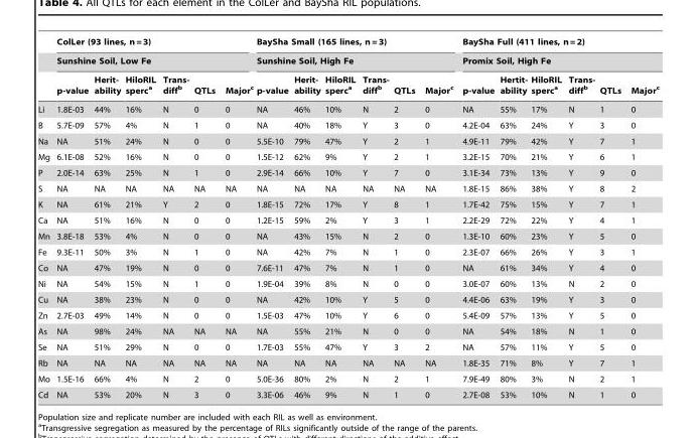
<table><thead><tr><td rowspan="3"></td><td rowspan="2" colspan="6">ColLer (93 lines, n = 3) Sunshine Soil, Low Fe</td><td rowspan="2" colspan="6">BaySha Small (165 lines, n = 3) Sunshine Soil, High Fe</td><td rowspan="2" colspan="6">BaySha Full (411 lines, n = 2) Promix Soil, High Fe</td></tr><tr></tr><tr><td>p-value</td><td>Herit- ability</td><td>HiloRIL sperc<sup>a</sup></td><td>Trans- diff<sup>b</sup></td><td>QTLs</td><td>Major<sup>c</sup></td><td>p-value</td><td>Herit- ability</td><td>HiloRIL sperc<sup>a</sup></td><td>Trans- diff<sup>b</sup></td><td>QTLs</td><td>Major<sup>c</sup></td><td>p-value</td><td>Hertit- ability</td><td>HiloRIL sperc<sup>a</sup></td><td>Trans- diff<sup>b</sup></td><td>QTLs</td><td>Major<sup>c</sup></td></tr></thead><tbody><tr><td>Li</td><td>1.8E-03</td><td>44%</td><td>16%</td><td>N</td><td>0</td><td>0</td><td>NA</td><td>46%</td><td>10%</td><td>N</td><td>2</td><td>0</td><td>NA</td><td>55%</td><td>17%</td><td>N</td><td>1</td><td>0</td></tr><tr><td>B</td><td>5.7E-09</td><td>57%</td><td>4%</td><td>N</td><td>1</td><td>0</td><td>NA</td><td>40%</td><td>18%</td><td>Y</td><td>3</td><td>0</td><td>4.2E-04</td><td>63%</td><td>24%</td><td>Y</td><td>3</td><td>0</td></tr><tr><td>Na</td><td>NA</td><td>51%</td><td>24%</td><td>N</td><td>0</td><td>0</td><td>5.5E-10</td><td>79%</td><td>47%</td><td>Y</td><td>2</td><td>1</td><td>4.9E-11</td><td>79%</td><td>42%</td><td>Y</td><td>7</td><td>1</td></tr><tr><td>Mg</td><td>6.1E-08</td><td>52%</td><td>16%</td><td>N</td><td>0</td><td>0</td><td>1.5E-12</td><td>62%</td><td>9%</td><td>Y</td><td>2</td><td>1</td><td>3.2E-15</td><td>70%</td><td>21%</td><td>Y</td><td>6</td><td>1</td></tr><tr><td>P</td><td>2.0E-14</td><td>63%</td><td>25%</td><td>N</td><td>1</td><td>0</td><td>2.9E-14</td><td>66%</td><td>10%</td><td>Y</td><td>7</td><td>0</td><td>3.1E-34</td><td>73%</td><td>13%</td><td>Y</td><td>9</td><td>0</td></tr><tr><td>S</td><td>NA</td><td>NA</td><td>NA</td><td>NA</td><td>NA</td><td>NA</td><td>NA</td><td>NA</td><td>NA</td><td>NA</td><td>NA</td><td>NA</td><td>1.8E-15</td><td>86%</td><td>38%</td><td>Y</td><td>8</td><td>2</td></tr><tr><td>K</td><td>NA</td><td>61%</td><td>21%</td><td>Y</td><td>2</td><td>0</td><td>1.8E-15</td><td>72%</td><td>17%</td><td>Y</td><td>8</td><td>1</td><td>1.7E-42</td><td>75%</td><td>15%</td><td>Y</td><td>7</td><td>1</td></tr><tr><td>Ca</td><td>NA</td><td>51%</td><td>16%</td><td>N</td><td>0</td><td>0</td><td>1.2E-15</td><td>59%</td><td>2%</td><td>Y</td><td>3</td><td>1</td><td>2.2E-29</td><td>72%</td><td>22%</td><td>Y</td><td>4</td><td>1</td></tr><tr><td>Mn</td><td>3.8E-18</td><td>53%</td><td>4%</td><td>N</td><td>0</td><td>0</td><td>NA</td><td>43%</td><td>15%</td><td>N</td><td>2</td><td>0</td><td>1.3E-10</td><td>60%</td><td>23%</td><td>Y</td><td>5</td><td>0</td></tr><tr><td>Fe</td><td>9.3E-11</td><td>50%</td><td>3%</td><td>N</td><td>1</td><td>0</td><td>NA</td><td>42%</td><td>7%</td><td>N</td><td>1</td><td>0</td><td>2.3E-07</td><td>66%</td><td>26%</td><td>Y</td><td>3</td><td>1</td></tr><tr><td>Co</td><td>NA</td><td>47%</td><td>19%</td><td>N</td><td>0</td><td>0</td><td>7.6E-11</td><td>47%</td><td>7%</td><td>N</td><td>1</td><td>0</td><td>NA</td><td>61%</td><td>34%</td><td>Y</td><td>4</td><td>0</td></tr><tr><td>Ni</td><td>NA</td><td>54%</td><td>15%</td><td>N</td><td>1</td><td>0</td><td>1.9E-04</td><td>39%</td><td>8%</td><td>N</td><td>0</td><td>0</td><td>3.0E-07</td><td>60%</td><td>13%</td><td>N</td><td>2</td><td>0</td></tr><tr><td>Cu</td><td>NA</td><td>38%</td><td>23%</td><td>N</td><td>0</td><td>0</td><td>NA</td><td>42%</td><td>10%</td><td>Y</td><td>5</td><td>0</td><td>4.4E-06</td><td>63%</td><td>19%</td><td>Y</td><td>3</td><td>0</td></tr><tr><td>Zn</td><td>2.7E-03</td><td>49%</td><td>14%</td><td>N</td><td>0</td><td>0</td><td>1.5E-03</td><td>47%</td><td>10%</td><td>Y</td><td>6</td><td>0</td><td>5.4E-09</td><td>57%</td><td>13%</td><td>Y</td><td>5</td><td>0</td></tr><tr><td>As</td><td>NA</td><td>98%</td><td>24%</td><td>NA</td><td>NA</td><td>NA</td><td>NA</td><td>55%</td><td>21%</td><td>N</td><td>0</td><td>0</td><td>NA</td><td>54%</td><td>18%</td><td>N</td><td>1</td><td>0</td></tr><tr><td>Se</td><td>NA</td><td>51%</td><td>29%</td><td>N</td><td>0</td><td>0</td><td>1.7E-03</td><td>55%</td><td>47%</td><td>Y</td><td>3</td><td>2</td><td>NA</td><td>57%</td><td>11%</td><td>Y</td><td>5</td><td>0</td></tr><tr><td>Rb</td><td>NA</td><td>NA</td><td>NA</td><td>NA</td><td>NA</td><td>NA</td><td>NA</td><td>NA</td><td>NA</td><td>NA</td><td>NA</td><td>NA</td><td>1.8E-35</td><td>71%</td><td>8%</td><td>Y</td><td>7</td><td>1</td></tr><tr><td>Mo</td><td>1.5E-16</td><td>66%</td><td>4%</td><td>N</td><td>2</td><td>0</td><td>5.0E-36</td><td>80%</td><td>2%</td><td>N</td><td>2</td><td>1</td><td>7.9E-49</td><td>80%</td><td>3%</td><td>N</td><td>2</td><td>1</td></tr><tr><td>Cd</td><td>NA</td><td>53%</td><td>20%</td><td>N</td><td>3</td><td>0</td><td>3.3E-06</td><td>46%</td><td>9%</td><td>N</td><td>1</td><td>0</td><td>2.7E-08</td><td>53%</td><td>10%</td><td>N</td><td>1</td><td>0</td></tr></tbody></table>